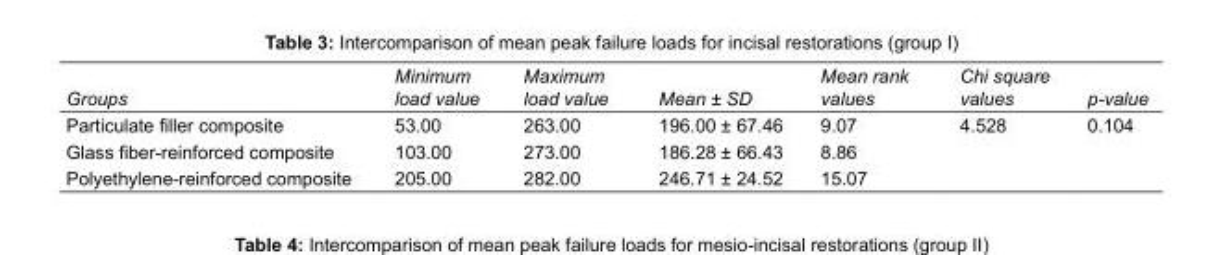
<table><tbody><tr><td>Groups</td><td>Minimum load value</td><td>Maximum load value</td><td>Mean ± SD</td><td>Mean rank values</td><td>Chi square values</td><td>p-value</td></tr><tr><td>Particulate filler composite</td><td>53.00</td><td>263.00</td><td>196.00 ± 67.46</td><td>9.07</td><td>4.528</td><td>0.104</td></tr><tr><td>Glass fiber-reinforced composite</td><td>103.00</td><td>273.00</td><td>186.28 ± 66.43</td><td>8.86</td><td></td><td></td></tr><tr><td>Polyethylene-reinforced composite</td><td>205.00</td><td>282.00</td><td>246.71 ± 24.52</td><td>15.07</td><td></td><td></td></tr></tbody></table>